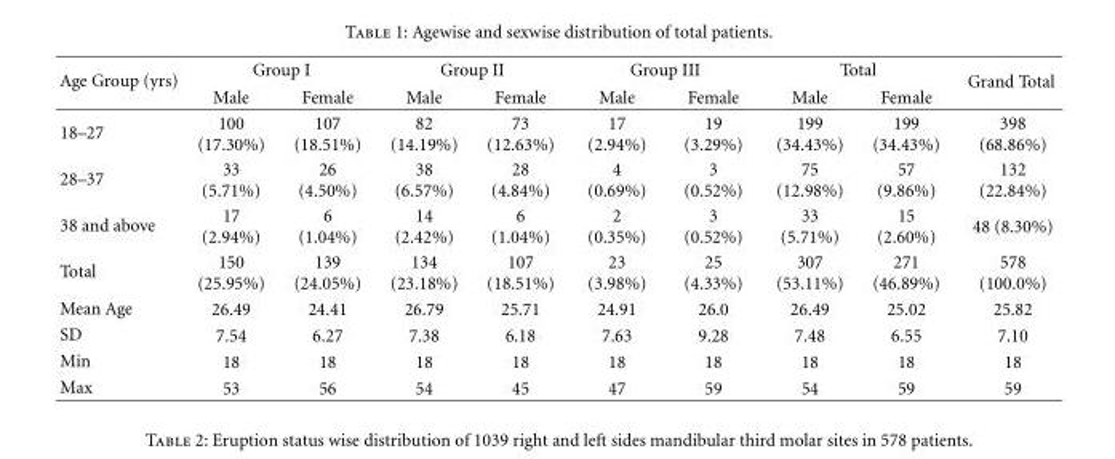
<table><thead><tr><td rowspan="2">Age Group (yrs)</td><td colspan="2">Group I</td><td colspan="2">Group II</td><td colspan="2">Group III</td><td colspan="2">Total</td><td rowspan="2">Grand Total</td></tr><tr><td>Male</td><td>Female</td><td>Male</td><td>Female</td><td>Male</td><td>Female</td><td>Male</td><td>Female</td></tr></thead><tbody><tr><td>18–27</td><td>100 (17.30%)</td><td>107 (18.51%)</td><td>82 (14.19%)</td><td>73 (12.63%)</td><td>17 (2.94%)</td><td>19 (3.29%)</td><td>199 (34.43%)</td><td>199 (34.43%)</td><td>398 (68.86%)</td></tr><tr><td>28–37</td><td>33 (5.71%)</td><td>26 (4.50%)</td><td>38 (6.57%)</td><td>28 (4.84%)</td><td>4 (0.69%)</td><td>3 (0.52%)</td><td>75 (12.98%)</td><td>57 (9.86%)</td><td>132 (22.84%)</td></tr><tr><td>38 and above</td><td>17 (2.94%)</td><td>6 (1.04%)</td><td>14 (2.42%)</td><td>6 (1.04%)</td><td>2 (0.35%)</td><td>3 (0.52%)</td><td>33 (5.71%)</td><td>15 (2.60%)</td><td>48 (8.30%)</td></tr><tr><td>Total</td><td>150 (25.95%)</td><td>139 (24.05%)</td><td>134 (23.18%)</td><td>107 (18.51%)</td><td>23 (3.98%)</td><td>25 (4.33%)</td><td>307 (53.11%)</td><td>271 (46.89%)</td><td>578 (100.0%)</td></tr><tr><td>Mean Age</td><td>26.49</td><td>24.41</td><td>26.79</td><td>25.71</td><td>24.91</td><td>26.0</td><td>26.49</td><td>25.02</td><td>25.82</td></tr><tr><td>SD</td><td>7.54</td><td>6.27</td><td>7.38</td><td>6.18</td><td>7.63</td><td>9.28</td><td>7.48</td><td>6.55</td><td>7.10</td></tr><tr><td>Min</td><td>18</td><td>18</td><td>18</td><td>18</td><td>18</td><td>18</td><td>18</td><td>18</td><td>18</td></tr><tr><td>Max</td><td>53</td><td>56</td><td>54</td><td>45</td><td>47</td><td>59</td><td>54</td><td>59</td><td>59</td></tr></tbody></table>